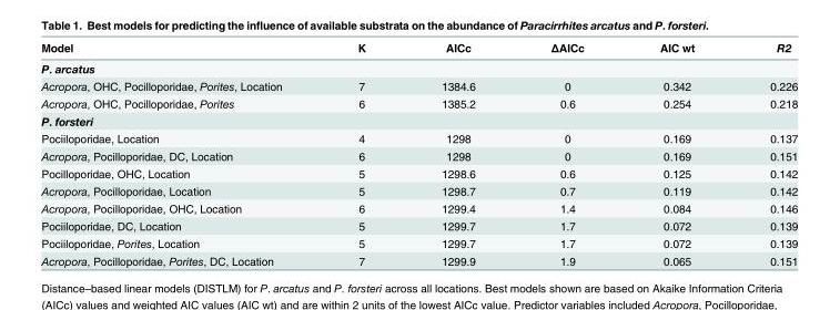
<table><thead><tr><td>Model</td><td>K</td><td>AICc</td><td>ΔAICc</td><td>AIC wt</td><td>R2</td></tr></thead><tbody><tr><td colspan="6">P. arcatus</td></tr><tr><td>Acropora, OHC, Pocilloporidae, Porites, Location</td><td>7</td><td>1384.6</td><td>0</td><td>0.342</td><td>0.226</td></tr><tr><td>Acropora, OHC, Pocilloporidae, Porites</td><td>6</td><td>1385.2</td><td>0.6</td><td>0.254</td><td>0.218</td></tr><tr><td colspan="6">P. forsteri</td></tr><tr><td>Pociiloporidae, Location</td><td>4</td><td>1298</td><td>0</td><td>0.169</td><td>0.137</td></tr><tr><td>Acropora, Pocilloporidae, DC, Location</td><td>6</td><td>1298</td><td>0</td><td>0.169</td><td>0.151</td></tr><tr><td>Pocilloporidae, OHC, Location</td><td>5</td><td>1298.6</td><td>0.6</td><td>0.125</td><td>0.142</td></tr><tr><td>Acropora, Pocilloporidae, Location</td><td>5</td><td>1298.7</td><td>0.7</td><td>0.119</td><td>0.142</td></tr><tr><td>Acropora, Pocilloporidae, OHC, Location</td><td>6</td><td>1299.4</td><td>1.4</td><td>0.084</td><td>0.146</td></tr><tr><td>Pociiloporidae, DC, Location</td><td>5</td><td>1299.7</td><td>1.7</td><td>0.072</td><td>0.139</td></tr><tr><td>Pociiloporidae, Porites, Location</td><td>5</td><td>1299.7</td><td>1.7</td><td>0.072</td><td>0.139</td></tr><tr><td>Acropora, Pocilloporidae, Porites, DC, Location</td><td>7</td><td>1299.9</td><td>1.9</td><td>0.065</td><td>0.151</td></tr></tbody></table>